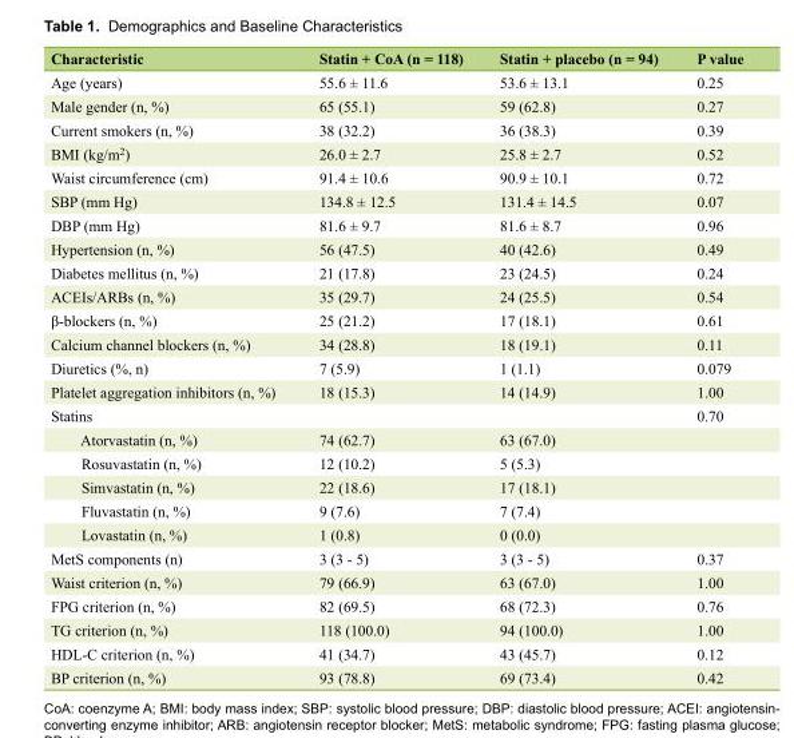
<table><thead><tr><td>Characteristic</td><td>Statin + CoA (n = 118)</td><td>Statin + placebo (n = 94)</td><td>P value</td></tr></thead><tbody><tr><td>Age (years)</td><td>55.6 ± 11.6</td><td>53.6 ± 13.1</td><td>0.25</td></tr><tr><td>Male gender (n, %)</td><td>65 (55.1)</td><td>59 (62.8)</td><td>0.27</td></tr><tr><td>Current smokers (n, %)</td><td>38 (32.2)</td><td>36 (38.3)</td><td>0.39</td></tr><tr><td>BMI (kg/m<sup>2</sup>)</td><td>26.0 ± 2.7</td><td>25.8 ± 2.7</td><td>0.52</td></tr><tr><td>Waist circumference (cm)</td><td>91.4 ± 10.6</td><td>90.9 ± 10.1</td><td>0.72</td></tr><tr><td>SBP (mm Hg)</td><td>134.8 ± 12.5</td><td>131.4 ± 14.5</td><td>0.07</td></tr><tr><td>DBP (mm Hg)</td><td>81.6 ± 9.7</td><td>81.6 ± 8.7</td><td>0.96</td></tr><tr><td>Hypertension (n, %)</td><td>56 (47.5)</td><td>40 (42.6)</td><td>0.49</td></tr><tr><td>Diabetes mellitus (n, %)</td><td>21 (17.8)</td><td>23 (24.5)</td><td>0.24</td></tr><tr><td>ACEIs/ARBs (n, %)</td><td>35 (29.7)</td><td>24 (25.5)</td><td>0.54</td></tr><tr><td>β-blockers (n, %)</td><td>25 (21.2)</td><td>17 (18.1)</td><td>0.61</td></tr><tr><td>Calcium channel blockers (n, %)</td><td>34 (28.8)</td><td>18 (19.1)</td><td>0.11</td></tr><tr><td>Diuretics (%, n)</td><td>7 (5.9)</td><td>1 (1.1)</td><td>0.079</td></tr><tr><td>Platelet aggregation inhibitors (n, %)</td><td>18 (15.3)</td><td>14 (14.9)</td><td>1.00</td></tr><tr><td>Statins</td><td></td><td></td><td>0.70</td></tr><tr><td>Atorvastatin (n, %)</td><td>74 (62.7)</td><td>63 (67.0)</td><td></td></tr><tr><td>Rosuvastatin (n, %)</td><td>12 (10.2)</td><td>5 (5.3)</td><td></td></tr><tr><td>Simvastatin (n, %)</td><td>22 (18.6)</td><td>17 (18.1)</td><td></td></tr><tr><td>Fluvastatin (n, %)</td><td>9 (7.6)</td><td>7 (7.4)</td><td></td></tr><tr><td>Lovastatin (n, %)</td><td>1 (0.8)</td><td>0 (0.0)</td><td></td></tr><tr><td>MetS components (n)</td><td>3 (3 - 5)</td><td>3 (3 - 5)</td><td>0.37</td></tr><tr><td>Waist criterion (n, %)</td><td>79 (66.9)</td><td>63 (67.0)</td><td>1.00</td></tr><tr><td>FPG criterion (n, %)</td><td>82 (69.5)</td><td>68 (72.3)</td><td>0.76</td></tr><tr><td>TG criterion (n, %)</td><td>118 (100.0)</td><td>94 (100.0)</td><td>1.00</td></tr><tr><td>HDL-C criterion (n, %)</td><td>41 (34.7)</td><td>43 (45.7)</td><td>0.12</td></tr><tr><td>BP criterion (n, %)</td><td>93 (78.8)</td><td>69 (73.4)</td><td>0.42</td></tr></tbody></table>